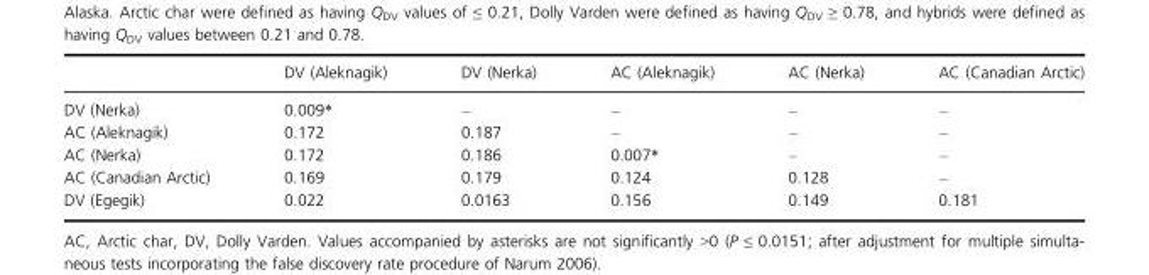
<table><thead><tr><td></td><td>DV (Aleknagik)</td><td>DV (Nerka)</td><td>AC (Aleknagik)</td><td>AC (Nerka)</td><td>AC (Canadian Arctic)</td></tr></thead><tbody><tr><td>DV (Nerka)</td><td>0.009*</td><td>–</td><td>–</td><td>–</td><td>–</td></tr><tr><td>AC (Aleknagik)</td><td>0.172</td><td>0.187</td><td>–</td><td>–</td><td>–</td></tr><tr><td>AC (Nerka)</td><td>0.172</td><td>0.186</td><td>0.007*</td><td>–</td><td>–</td></tr><tr><td>AC (Canadian Arctic)</td><td>0.169</td><td>0.179</td><td>0.124</td><td>0.128</td><td>–</td></tr><tr><td>DV (Egegik)</td><td>0.022</td><td>0.0163</td><td>0.156</td><td>0.149</td><td>0.181</td></tr></tbody></table>